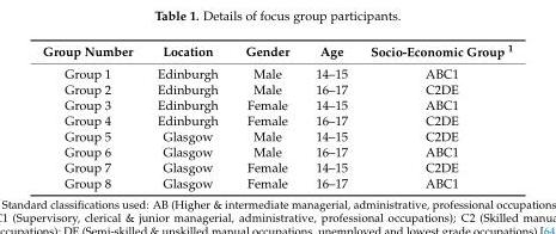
<table><thead><tr><td>Group Number</td><td>Location</td><td>Gender</td><td>Age</td><td>Socio-Economic Group <sup>1</sup></td></tr></thead><tbody><tr><td>Group 1</td><td>Edinburgh</td><td>Male</td><td>14–15</td><td>ABC1</td></tr><tr><td>Group 2</td><td>Edinburgh</td><td>Male</td><td>16–17</td><td>C2DE</td></tr><tr><td>Group 3</td><td>Edinburgh</td><td>Female</td><td>14–15</td><td>ABC1</td></tr><tr><td>Group 4</td><td>Edinburgh</td><td>Female</td><td>16–17</td><td>C2DE</td></tr><tr><td>Group 5</td><td>Glasgow</td><td>Male</td><td>14–15</td><td>C2DE</td></tr><tr><td>Group 6</td><td>Glasgow</td><td>Male</td><td>16–17</td><td>ABC1</td></tr><tr><td>Group 7</td><td>Glasgow</td><td>Female</td><td>14–15</td><td>C2DE</td></tr><tr><td>Group 8</td><td>Glasgow</td><td>Female</td><td>16–17</td><td>ABC1</td></tr></tbody></table>